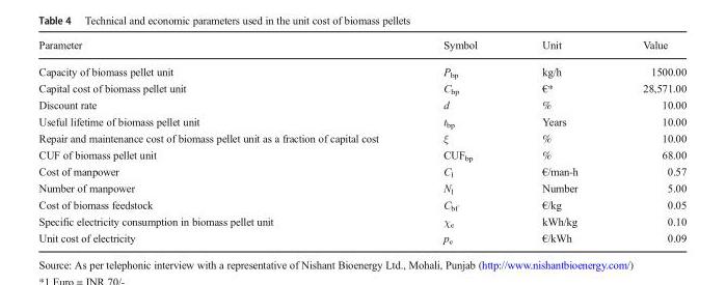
<table><thead><tr><td>Parameter</td><td>Symbol</td><td>Unit</td><td>Value</td></tr></thead><tbody><tr><td>Capacity of biomass pellet unit</td><td>P<sub>bp</sub></td><td>kg/h</td><td>1500.00</td></tr><tr><td>Capital cost of biomass pellet unit</td><td>C<sub>bp</sub></td><td>€*</td><td>28,571.00</td></tr><tr><td>Discount rate</td><td>d</td><td>%</td><td>10.00</td></tr><tr><td>Useful lifetime of biomass pellet unit</td><td>t<sub>bp</sub></td><td>Years</td><td>10.00</td></tr><tr><td>Repair and maintenance cost of biomass pellet unit as a fraction of capital cost</td><td>ξ</td><td>%</td><td>10.00</td></tr><tr><td>CUF of biomass pellet unit</td><td>CUF<sub>bp</sub></td><td>%</td><td>68.00</td></tr><tr><td>Cost of manpower</td><td>C<sub>l</sub></td><td>€/man-h</td><td>0.57</td></tr><tr><td>Number of manpower</td><td>N<sub>l</sub></td><td>Number</td><td>5.00</td></tr><tr><td>Cost of biomass feedstock</td><td>C<sub>bf</sub></td><td>€/kg</td><td>0.05</td></tr><tr><td>Specific electricity consumption in biomass pellet unit</td><td>χ<sub>e</sub></td><td>kWh/kg</td><td>0.10</td></tr><tr><td>Unit cost of electricity</td><td>p<sub>e</sub></td><td>€/kWh</td><td>0.09</td></tr></tbody></table>